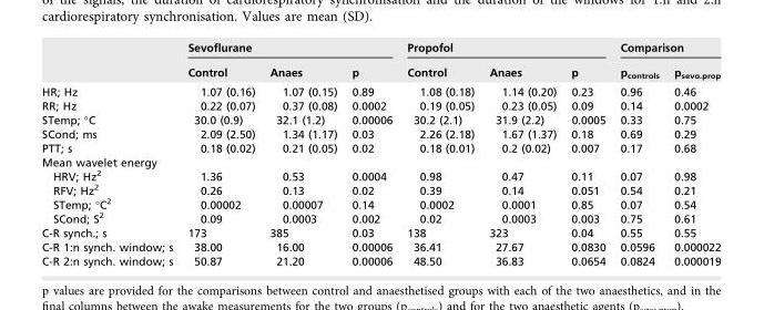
<table><thead><tr><td rowspan="2"></td><td colspan="3">Sevoflurane</td><td colspan="3">Propofol</td><td colspan="2">Comparison</td></tr><tr><td>Control</td><td>Anaes</td><td>p</td><td>Control</td><td>Anaes</td><td>p</td><td>p<sub>controls</sub></td><td>p<sub>sevo.prop</sub></td></tr></thead><tbody><tr><td>HR; Hz</td><td>1.07 (0.16)</td><td>1.07 (0.15)</td><td>0.89</td><td>1.08 (0.18)</td><td>1.14 (0.20)</td><td>0.23</td><td>0.96</td><td>0.46</td></tr><tr><td>RR; Hz</td><td>0.22 (0.07)</td><td>0.37 (0.08)</td><td>0.0002</td><td>0.19 (0.05)</td><td>0.23 (0.05)</td><td>0.09</td><td>0.14</td><td>0.0002</td></tr><tr><td>STemp; °C</td><td>30.0 (0.9)</td><td>32.1 (1.2)</td><td>0.00006</td><td>30.2 (2.1)</td><td>31.9 (2.2)</td><td>0.0005</td><td>0.33</td><td>0.75</td></tr><tr><td>SCond; ms</td><td>2.09 (2.50)</td><td>1.34 (1.17)</td><td>0.03</td><td>2.26 (2.18)</td><td>1.67 (1.37)</td><td>0.18</td><td>0.69</td><td>0.29</td></tr><tr><td>PTT; s</td><td>0.18 (0.02)</td><td>0.21 (0.05)</td><td>0.02</td><td>0.18 (0.01)</td><td>0.2 (0.02)</td><td>0.007</td><td>0.17</td><td>0.68</td></tr><tr><td colspan="9">Mean wavelet energy</td></tr><tr><td>HRV; Hz<sup>2</sup></td><td>1.36</td><td>0.53</td><td>0.0004</td><td>0.98</td><td>0.47</td><td>0.11</td><td>0.07</td><td>0.98</td></tr><tr><td>RFV; Hz<sup>2</sup></td><td>0.26</td><td>0.13</td><td>0.02</td><td>0.39</td><td>0.14</td><td>0.051</td><td>0.54</td><td>0.21</td></tr><tr><td>STemp; °C<sup>2</sup></td><td>0.00002</td><td>0.00007</td><td>0.14</td><td>0.0002</td><td>0.0001</td><td>0.85</td><td>0.07</td><td>0.54</td></tr><tr><td>SCond; S<sup>2</sup></td><td>0.09</td><td>0.0003</td><td>0.002</td><td>0.02</td><td>0.0003</td><td>0.003</td><td>0.75</td><td>0.61</td></tr><tr><td>C-R synch.; s</td><td>173</td><td>385</td><td>0.03</td><td>138</td><td>323</td><td>0.04</td><td>0.55</td><td>0.55</td></tr><tr><td>C-R 1:n synch. window; s</td><td>38.00</td><td>16.00</td><td>0.00006</td><td>36.41</td><td>27.67</td><td>0.0830</td><td>0.0596</td><td>0.000022</td></tr><tr><td>C-R 2:n synch. window; s</td><td>50.87</td><td>21.20</td><td>0.00006</td><td>48.50</td><td>36.83</td><td>0.0654</td><td>0.0824</td><td>0.000019</td></tr></tbody></table>